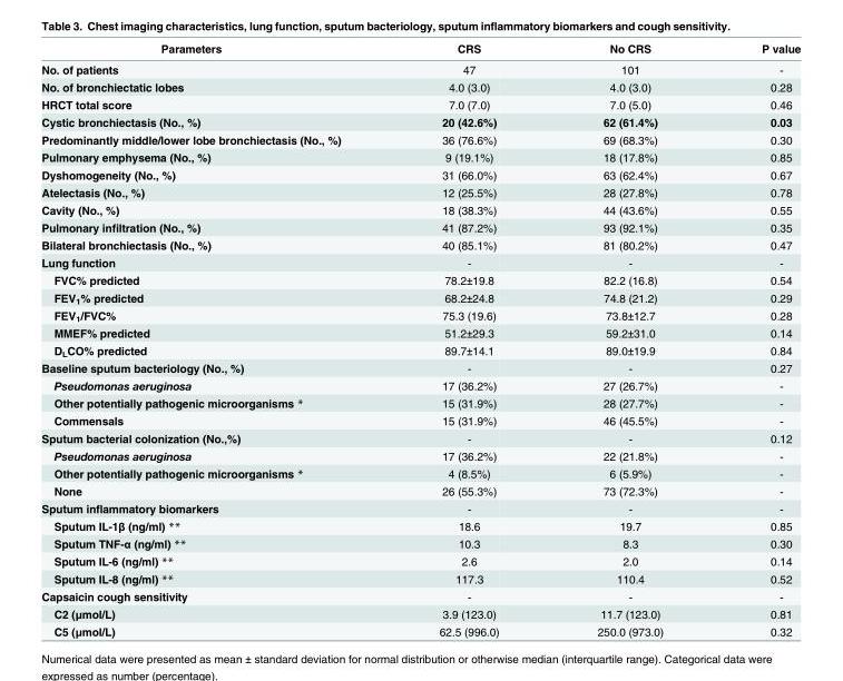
<table><thead><tr><td>Parameters</td><td>CRS</td><td>No CRS</td><td>P value</td></tr></thead><tbody><tr><td>No. of patients</td><td>47</td><td>101</td><td>-</td></tr><tr><td>No. of bronchiectatic lobes</td><td>4.0 (3.0)</td><td>4.0 (3.0)</td><td>0.28</td></tr><tr><td>HRCT total score</td><td>7.0 (7.0)</td><td>7.0 (5.0)</td><td>0.46</td></tr><tr><td>Cystic bronchiectasis (No., %)</td><td>20 (42.6%)</td><td>62 (61.4%)</td><td>0.03</td></tr><tr><td>Predominantly middle/lower lobe bronchiectasis (No., %)</td><td>36 (76.6%)</td><td>69 (68.3%)</td><td>0.30</td></tr><tr><td>Pulmonary emphysema (No., %)</td><td>9 (19.1%)</td><td>18 (17.8%)</td><td>0.85</td></tr><tr><td>Dyshomogeneity (No., %)</td><td>31 (66.0%)</td><td>63 (62.4%)</td><td>0.67</td></tr><tr><td>Atelectasis (No., %)</td><td>12 (25.5%)</td><td>28 (27.8%)</td><td>0.78</td></tr><tr><td>Cavity (No., %)</td><td>18 (38.3%)</td><td>44 (43.6%)</td><td>0.55</td></tr><tr><td>Pulmonary infiltration (No., %)</td><td>41 (87.2%)</td><td>93 (92.1%)</td><td>0.35</td></tr><tr><td>Bilateral bronchiectasis (No., %)</td><td>40 (85.1%)</td><td>81 (80.2%)</td><td>0.47</td></tr><tr><td>Lung function</td><td>-</td><td>-</td><td>-</td></tr><tr><td>FVC% predicted</td><td>78.2±19.8</td><td>82.2 (16.8)</td><td>0.54</td></tr><tr><td>FEV<sub>1</sub>% predicted</td><td>68.2±24.8</td><td>74.8 (21.2)</td><td>0.29</td></tr><tr><td>FEV<sub>1</sub>/FVC%</td><td>75.3 (19.6)</td><td>73.8±12.7</td><td>0.28</td></tr><tr><td>MMEF% predicted</td><td>51.2±29.3</td><td>59.2±31.0</td><td>0.14</td></tr><tr><td>D<sub>L</sub>CO% predicted</td><td>89.7±14.1</td><td>89.0±19.9</td><td>0.84</td></tr><tr><td>Baseline sputum bacteriology (No., %)</td><td>-</td><td>-</td><td>0.27</td></tr><tr><td>Pseudomonas aeruginosa</td><td>17 (36.2%)</td><td>27 (26.7%)</td><td>-</td></tr><tr><td>Other potentially pathogenic microorganisms *</td><td>15 (31.9%)</td><td>28 (27.7%)</td><td>-</td></tr><tr><td>Commensals</td><td>15 (31.9%)</td><td>46 (45.5%)</td><td>-</td></tr><tr><td>Sputum bacterial colonization (No.,%)</td><td>-</td><td>-</td><td>0.12</td></tr><tr><td>Pseudomonas aeruginosa</td><td>17 (36.2%)</td><td>22 (21.8%)</td><td>-</td></tr><tr><td>Other potentially pathogenic microorganisms *</td><td>4 (8.5%)</td><td>6 (5.9%)</td><td>-</td></tr><tr><td>None</td><td>26 (55.3%)</td><td>73 (72.3%)</td><td>-</td></tr><tr><td>Sputum inflammatory biomarkers</td><td>-</td><td>-</td><td>-</td></tr><tr><td>Sputum IL-1β (ng/ml) **</td><td>18.6</td><td>19.7</td><td>0.85</td></tr><tr><td>Sputum TNF-α (ng/ml) **</td><td>10.3</td><td>8.3</td><td>0.30</td></tr><tr><td>Sputum IL-6 (ng/ml) **</td><td>2.6</td><td>2.0</td><td>0.14</td></tr><tr><td>Sputum IL-8 (ng/ml) **</td><td>117.3</td><td>110.4</td><td>0.52</td></tr><tr><td>Capsaicin cough sensitivity</td><td>-</td><td>-</td><td>-</td></tr><tr><td>C2 (μmol/L)</td><td>3.9 (123.0)</td><td>11.7 (123.0)</td><td>0.81</td></tr><tr><td>C5 (μmol/L)</td><td>62.5 (996.0)</td><td>250.0 (973.0)</td><td>0.32</td></tr></tbody></table>